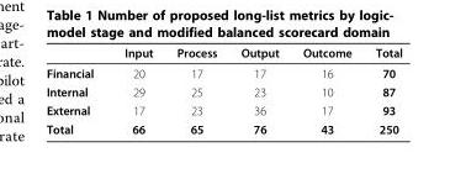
<table><thead><tr><td></td><td>Input</td><td>Process</td><td>Output</td><td>Outcome</td><td>Total</td></tr></thead><tbody><tr><td>Financial</td><td>20</td><td>17</td><td>17</td><td>16</td><td>70</td></tr><tr><td>Internal</td><td>29</td><td>25</td><td>23</td><td>10</td><td>87</td></tr><tr><td>External</td><td>17</td><td>23</td><td>36</td><td>17</td><td>93</td></tr><tr><td>Total</td><td>66</td><td>65</td><td>76</td><td>43</td><td>250</td></tr></tbody></table>